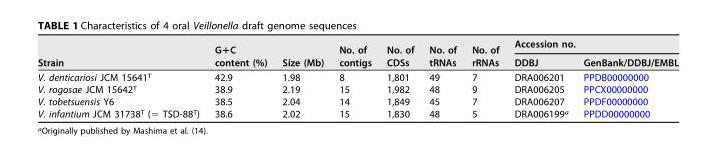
<table><thead><tr><td rowspan="2">Strain</td><td rowspan="2">G+C content (%)</td><td rowspan="2">Size (Mb)</td><td rowspan="2">No. of contigs</td><td rowspan="2">No. of CDSs</td><td rowspan="2">No. of tRNAs</td><td rowspan="2">No. of rRNAs</td><td colspan="2">Accession no.</td></tr><tr><td>DDBJ</td><td>GenBank/DDBJ/EMBL</td></tr></thead><tbody><tr><td>V. denticariosi JCM 15641<sup>T</sup></td><td>42.9</td><td>1.98</td><td>8</td><td>1,801</td><td>49</td><td>7</td><td>DRA006201</td><td>PPDB00000000</td></tr><tr><td>V. rogosae JCM 15642<sup>T</sup></td><td>38.9</td><td>2.19</td><td>15</td><td>1,982</td><td>48</td><td>9</td><td>DRA006205</td><td>PPCX00000000</td></tr><tr><td>V. tobetsuensis Y6</td><td>38.5</td><td>2.04</td><td>14</td><td>1,849</td><td>45</td><td>7</td><td>DRA006207</td><td>PPDF00000000</td></tr><tr><td>V. infantium JCM 31738<sup>T</sup> (= TSD-88<sup>T</sup>)</td><td>38.6</td><td>2.02</td><td>15</td><td>1,830</td><td>48</td><td>5</td><td>DRA006199<sup>a</sup></td><td>PPDD00000000</td></tr></tbody></table>